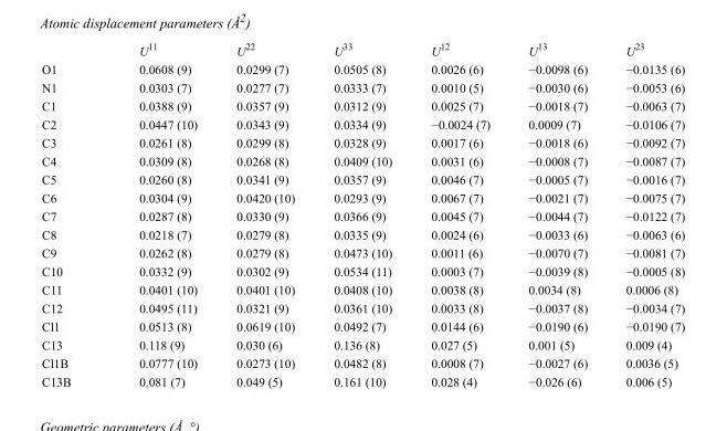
<table><thead><tr><td></td><td>U<sup>11</sup></td><td>U<sup>22</sup></td><td>U<sup>33</sup></td><td>U<sup>12</sup></td><td>U<sup>13</sup></td><td>U<sup>23</sup></td></tr></thead><tbody><tr><td>O1</td><td>0.0608 (9)</td><td>0.0299 (7)</td><td>0.0505 (8)</td><td>0.0026 (6)</td><td>−0.0098 (6)</td><td>−0.0135 (6)</td></tr><tr><td>N1</td><td>0.0303 (7)</td><td>0.0277 (7)</td><td>0.0333 (7)</td><td>0.0010 (5)</td><td>−0.0030 (6)</td><td>−0.0053 (6)</td></tr><tr><td>C1</td><td>0.0388 (9)</td><td>0.0357 (9)</td><td>0.0312 (9)</td><td>0.0025 (7)</td><td>−0.0018 (7)</td><td>−0.0063 (7)</td></tr><tr><td>C2</td><td>0.0447 (10)</td><td>0.0343 (9)</td><td>0.0334 (9)</td><td>−0.0024 (7)</td><td>0.0009 (7)</td><td>−0.0106 (7)</td></tr><tr><td>C3</td><td>0.0261 (8)</td><td>0.0299 (8)</td><td>0.0328 (9)</td><td>0.0017 (6)</td><td>−0.0018 (6)</td><td>−0.0092 (7)</td></tr><tr><td>C4</td><td>0.0309 (8)</td><td>0.0268 (8)</td><td>0.0409 (10)</td><td>0.0031 (6)</td><td>−0.0008 (7)</td><td>−0.0087 (7)</td></tr><tr><td>C5</td><td>0.0260 (8)</td><td>0.0341 (9)</td><td>0.0357 (9)</td><td>0.0046 (7)</td><td>−0.0005 (7)</td><td>−0.0016 (7)</td></tr><tr><td>C6</td><td>0.0304 (9)</td><td>0.0420 (10)</td><td>0.0293 (9)</td><td>0.0067 (7)</td><td>−0.0021 (7)</td><td>−0.0075 (7)</td></tr><tr><td>C7</td><td>0.0287 (8)</td><td>0.0330 (9)</td><td>0.0366 (9)</td><td>0.0045 (7)</td><td>−0.0044 (7)</td><td>−0.0122 (7)</td></tr><tr><td>C8</td><td>0.0218 (7)</td><td>0.0279 (8)</td><td>0.0335 (9)</td><td>0.0024 (6)</td><td>−0.0033 (6)</td><td>−0.0063 (6)</td></tr><tr><td>C9</td><td>0.0262 (8)</td><td>0.0279 (8)</td><td>0.0473 (10)</td><td>0.0011 (6)</td><td>−0.0070 (7)</td><td>−0.0081 (7)</td></tr><tr><td>C10</td><td>0.0332 (9)</td><td>0.0302 (9)</td><td>0.0534 (11)</td><td>0.0003 (7)</td><td>−0.0039 (8)</td><td>−0.0005 (8)</td></tr><tr><td>C11</td><td>0.0401 (10)</td><td>0.0401 (10)</td><td>0.0408 (10)</td><td>0.0038 (8)</td><td>0.0034 (8)</td><td>0.0006 (8)</td></tr><tr><td>C12</td><td>0.0495 (11)</td><td>0.0321 (9)</td><td>0.0361 (10)</td><td>0.0033 (8)</td><td>−0.0037 (8)</td><td>−0.0034 (7)</td></tr><tr><td>Cl1</td><td>0.0513 (8)</td><td>0.0619 (10)</td><td>0.0492 (7)</td><td>0.0144 (6)</td><td>−0.0190 (6)</td><td>−0.0190 (7)</td></tr><tr><td>C13</td><td>0.118 (9)</td><td>0.030 (6)</td><td>0.136 (8)</td><td>0.027 (5)</td><td>0.001 (5)</td><td>0.009 (4)</td></tr><tr><td>Cl1B</td><td>0.0777 (10)</td><td>0.0273 (10)</td><td>0.0482 (8)</td><td>0.0008 (7)</td><td>−0.0027 (6)</td><td>0.0036 (5)</td></tr><tr><td>C13B</td><td>0.081 (7)</td><td>0.049 (5)</td><td>0.161 (10)</td><td>0.028 (4)</td><td>−0.026 (6)</td><td>0.006 (5)</td></tr></tbody></table>